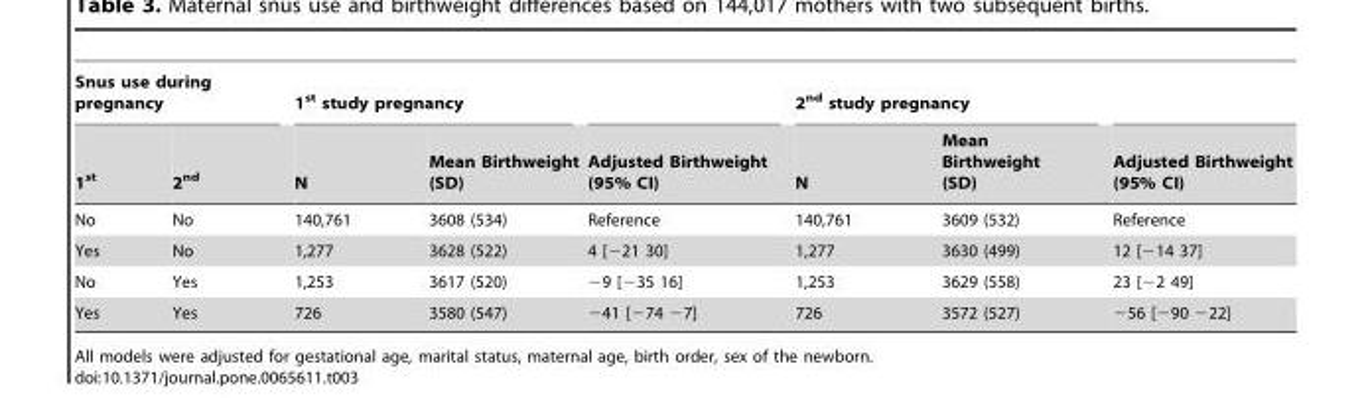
<table><thead><tr><td colspan="2">Snus use during pregnancy</td><td colspan="2">1<sup>st</sup> study pregnancy</td><td rowspan="2">Adjusted Birthweight (95% CI)</td><td colspan="2">2<sup>nd</sup> study pregnancy</td><td rowspan="2">Adjusted Birthweight (95% CI)</td></tr><tr><td>1<sup>st</sup></td><td>2<sup>nd</sup></td><td>N</td><td>Mean Birthweight (SD)</td><td>N</td><td>Mean Birthweight (SD)</td></tr></thead><tbody><tr><td>No</td><td>No</td><td>140,761</td><td>3608 (534)</td><td>Reference</td><td>140,761</td><td>3609 (532)</td><td>Reference</td></tr><tr><td>Yes</td><td>No</td><td>1,277</td><td>3628 (522)</td><td>4 [−21 30]</td><td>1,277</td><td>3630 (499)</td><td>12 [−14 37]</td></tr><tr><td>No</td><td>Yes</td><td>1,253</td><td>3617 (520)</td><td>−9 [−35 16]</td><td>1,253</td><td>3629 (558)</td><td>23 [−2 49]</td></tr><tr><td>Yes</td><td>Yes</td><td>726</td><td>3580 (547)</td><td>−41 [−74 −7]</td><td>726</td><td>3572 (527)</td><td>−56 [−90 −22]</td></tr></tbody></table>